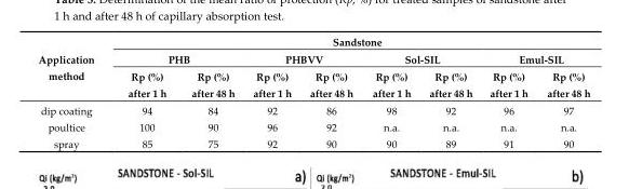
<table><thead><tr><td rowspan="3">Application method</td><td colspan="8">Sandstone</td></tr><tr><td colspan="2">PHB</td><td colspan="2">PHBVV</td><td colspan="2">Sol-SIL</td><td colspan="2">Emul-SIL</td></tr><tr><td>Rp (%) after 1 h</td><td>Rp (%) after 48 h</td><td>Rp (%) after 1 h</td><td>Rp (%) after 48 h</td><td>Rp (%) after 1 h</td><td>Rp (%) after 48 h</td><td>Rp (%) after 1 h</td><td>Rp (%) after 48 h</td></tr></thead><tbody><tr><td>dip coating</td><td>94</td><td>84</td><td>92</td><td>86</td><td>98</td><td>92</td><td>96</td><td>97</td></tr><tr><td>poultice</td><td>100</td><td>90</td><td>96</td><td>92</td><td>n.a.</td><td>n.a.</td><td>n.a.</td><td>n.a.</td></tr><tr><td>spray</td><td>85</td><td>75</td><td>92</td><td>90</td><td>90</td><td>89</td><td>91</td><td>90</td></tr></tbody></table>